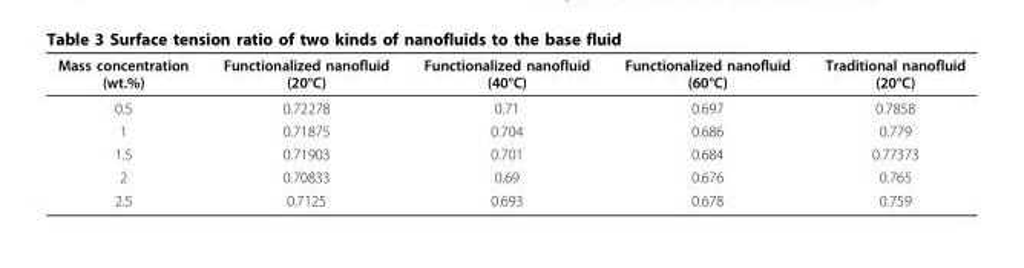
<table><thead><tr><td>Mass concentration (wt.%)</td><td>Functionalized nanofluid (20°C)</td><td>Functionalized nanofluid (40°C)</td><td>Functionalized nanofluid (60°C)</td><td>Traditional nanofluid (20°C)</td></tr></thead><tbody><tr><td>0.5</td><td>0.72278</td><td>0.71</td><td>0.697</td><td>0.7858</td></tr><tr><td>1</td><td>0.71875</td><td>0.704</td><td>0.686</td><td>0.779</td></tr><tr><td>1.5</td><td>0.71903</td><td>0.701</td><td>0.684</td><td>0.77373</td></tr><tr><td>2</td><td>0.70833</td><td>0.69</td><td>0.676</td><td>0.765</td></tr><tr><td>2.5</td><td>0.7125</td><td>0.693</td><td>0.678</td><td>0.759</td></tr></tbody></table>